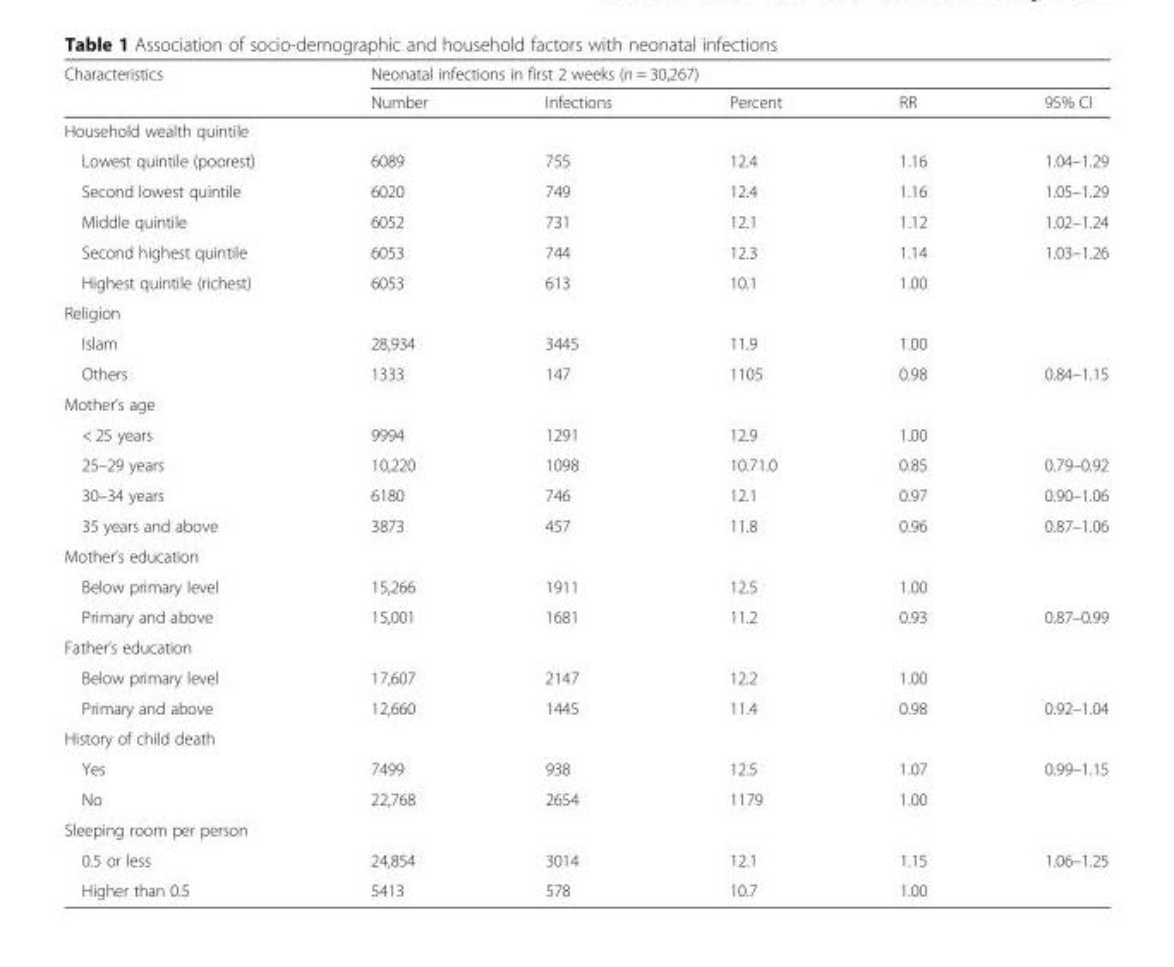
<table><thead><tr><td rowspan="2">Characteristics</td><td colspan="5">Neonatal infections in first 2 weeks (n = 30,267)</td></tr><tr><td>Number</td><td>Infections</td><td>Percent</td><td>RR</td><td>95% CI</td></tr></thead><tbody><tr><td colspan="6">Household wealth quintile</td></tr><tr><td>Lowest quintile (poorest)</td><td>6089</td><td>755</td><td>12.4</td><td>1.16</td><td>1.04–1.29</td></tr><tr><td>Second lowest quintile</td><td>6020</td><td>749</td><td>12.4</td><td>1.16</td><td>1.05–1.29</td></tr><tr><td>Middle quintile</td><td>6052</td><td>731</td><td>12.1</td><td>1.12</td><td>1.02–1.24</td></tr><tr><td>Second highest quintile</td><td>6053</td><td>744</td><td>12.3</td><td>1.14</td><td>1.03–1.26</td></tr><tr><td>Highest quintile (richest)</td><td>6053</td><td>613</td><td>10.1</td><td>1.00</td><td></td></tr><tr><td colspan="6">Religion</td></tr><tr><td>Islam</td><td>28,934</td><td>3445</td><td>11.9</td><td>1.00</td><td></td></tr><tr><td>Others</td><td>1333</td><td>147</td><td>1105</td><td>0.98</td><td>0.84–1.15</td></tr><tr><td colspan="6">Mother’s age</td></tr><tr><td>&lt; 25 years</td><td>9994</td><td>1291</td><td>12.9</td><td>1.00</td><td></td></tr><tr><td>25–29 years</td><td>10,220</td><td>1098</td><td>10.71.0</td><td>0.85</td><td>0.79–0.92</td></tr><tr><td>30–34 years</td><td>6180</td><td>746</td><td>12.1</td><td>0.97</td><td>0.90–1.06</td></tr><tr><td>35 years and above</td><td>3873</td><td>457</td><td>11.8</td><td>0.96</td><td>0.87–1.06</td></tr><tr><td colspan="6">Mother’s education</td></tr><tr><td>Below primary level</td><td>15,266</td><td>1911</td><td>12.5</td><td>1.00</td><td></td></tr><tr><td>Primary and above</td><td>15,001</td><td>1681</td><td>11.2</td><td>0.93</td><td>0.87–0.99</td></tr><tr><td colspan="6">Father’s education</td></tr><tr><td>Below primary level</td><td>17,607</td><td>2147</td><td>12.2</td><td>1.00</td><td></td></tr><tr><td>Primary and above</td><td>12,660</td><td>1445</td><td>11.4</td><td>0.98</td><td>0.92–1.04</td></tr><tr><td colspan="6">History of child death</td></tr><tr><td>Yes</td><td>7499</td><td>938</td><td>12.5</td><td>1.07</td><td>0.99–1.15</td></tr><tr><td>No</td><td>22,768</td><td>2654</td><td>1179</td><td>1.00</td><td></td></tr><tr><td colspan="6">Sleeping room per person</td></tr><tr><td>0.5 or less</td><td>24,854</td><td>3014</td><td>12.1</td><td>1.15</td><td>1.06–1.25</td></tr><tr><td>Higher than 0.5</td><td>5413</td><td>578</td><td>10.7</td><td>1.00</td><td></td></tr></tbody></table>